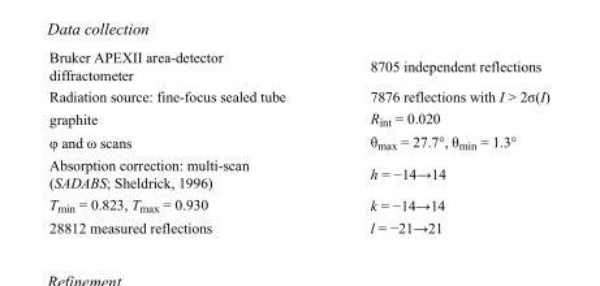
<table><tbody><tr><td>Bruker APEXII area-detector diffractometer</td><td>8705 independent reflections</td></tr><tr><td>Radiation source: fine-focus sealed tube</td><td>7876 reflections with I &gt; 2σ(I)</td></tr><tr><td>graphite</td><td>R<sub>int</sub> = 0.020</td></tr><tr><td>φ and ω scans</td><td>θ<sub>max</sub> = 27.7°, θ<sub>min</sub> = 1.3°</td></tr><tr><td>Absorption correction: multi-scan (SADABS; Sheldrick, 1996)</td><td>h = −14→14</td></tr><tr><td>T<sub>min</sub> = 0.823, T<sub>max</sub> = 0.930</td><td>k = −14→14</td></tr><tr><td>28812 measured reflections</td><td>l = −21→21</td></tr></tbody></table>